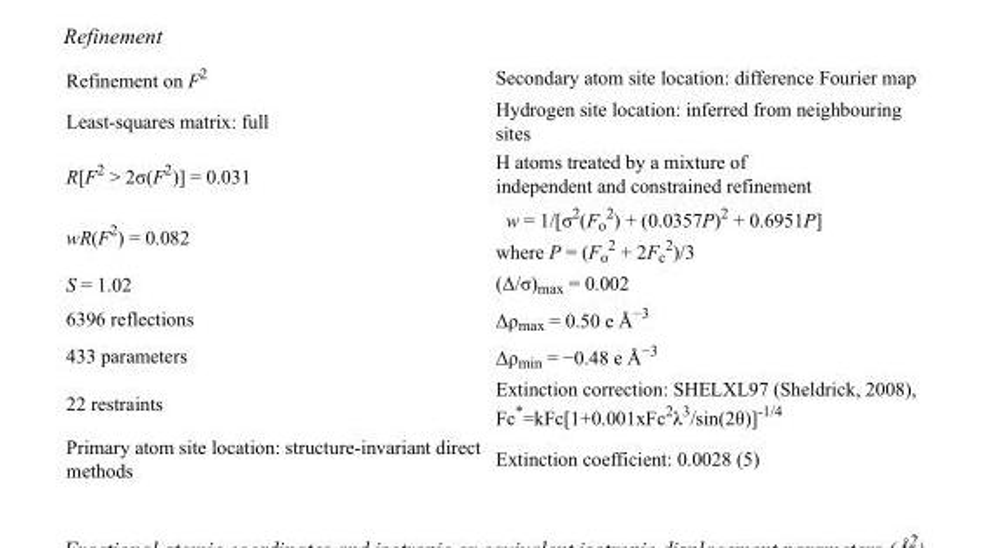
<table><tbody><tr><td>Refinement on F<sup>2</sup></td><td>Secondary atom site location: difference Fourier map</td></tr><tr><td>Least-squares matrix: full</td><td>Hydrogen site location: inferred from neighbouring sites</td></tr><tr><td>R[F<sup>2</sup> &gt; 2σ(F<sup>2</sup>)] = 0.031</td><td>H atoms treated by a mixture of independent and constrained refinement</td></tr><tr><td>wR(F<sup>2</sup>) = 0.082</td><td>w = 1/[σ<sup>2</sup>(F<sub>o</sub> <sup>2</sup>) + (0.0357P)<sup>2</sup> + 0.6951P] where P = (F<sub>o</sub> <sup>2</sup> + 2F<sub>c</sub> <sup>2</sup>)/3</td></tr><tr><td>S = 1.02</td><td>(Δ/σ)<sub>max</sub> = 0.002</td></tr><tr><td>6396 reflections</td><td>Δρ<sub>max</sub> = 0.50 e Å<sup>−3</sup></td></tr><tr><td>433 parameters</td><td>Δρ<sub>min</sub> = −0.48 e Å<sup>−3</sup></td></tr><tr><td>22 restraints</td><td>Extinction correction: SHELXL97 (Sheldrick, 2008), Fc*=kFc[1+0.001xFc<sup>2</sup>λ<sup>3</sup>/sin(2θ)]<sup>-1/4</sup></td></tr><tr><td>Primary atom site location: structure-invariant direct methods</td><td>Extinction coefficient: 0.0028 (5)</td></tr></tbody></table>